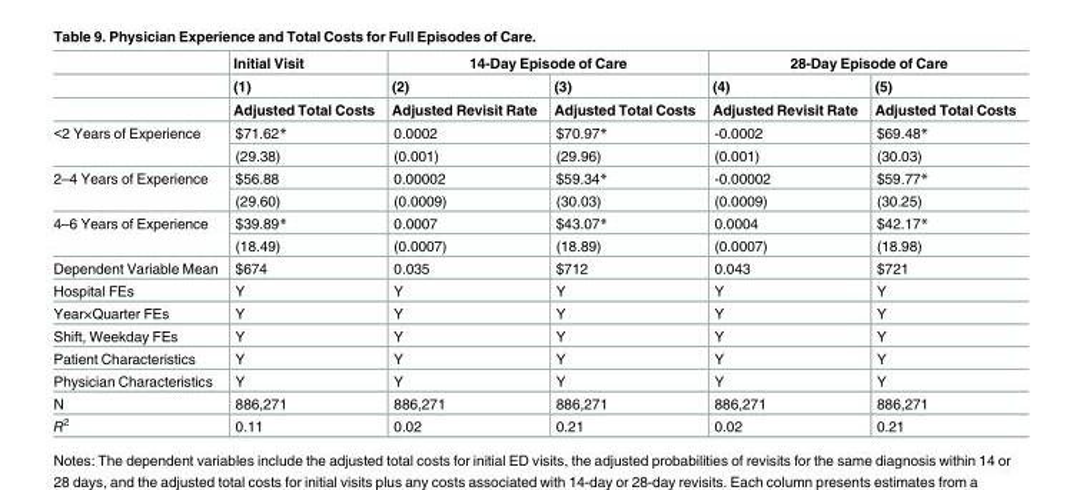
<table><thead><tr><td rowspan="3"></td><td rowspan="3">Initial Visit (1) Adjusted Total Costs</td><td colspan="2">14-Day Episode of Care</td><td colspan="2">28-Day Episode of Care</td></tr><tr><td rowspan="2">(2) Adjusted Revisit Rate</td><td rowspan="2">(3) Adjusted Total Costs</td><td rowspan="2">(4) Adjusted Revisit Rate</td><td rowspan="2">(5) Adjusted Total Costs</td></tr><tr></tr></thead><tbody><tr><td rowspan="2">&lt;2 Years of Experience</td><td>$71.62*</td><td>0.0002</td><td>$70.97*</td><td>-0.0002</td><td>$69.48*</td></tr><tr><td>(29.38)</td><td>(0.001)</td><td>(29.96)</td><td>(0.001)</td><td>(30.03)</td></tr><tr><td rowspan="2">2–4 Years of Experience</td><td>$56.88</td><td>0.00002</td><td>$59.34*</td><td>-0.00002</td><td>$59.77*</td></tr><tr><td>(29.60)</td><td>(0.0009)</td><td>(30.03)</td><td>(0.0009)</td><td>(30.25)</td></tr><tr><td rowspan="2">4–6 Years of Experience</td><td>$39.89*</td><td>0.0007</td><td>$43.07*</td><td>0.0004</td><td>$42.17*</td></tr><tr><td>(18.49)</td><td>(0.0007)</td><td>(18.89)</td><td>(0.0007)</td><td>(18.98)</td></tr><tr><td>Dependent Variable Mean</td><td>$674</td><td>0.035</td><td>$712</td><td>0.043</td><td>$721</td></tr><tr><td>Hospital FEs</td><td>Y</td><td>Y</td><td>Y</td><td>Y</td><td>Y</td></tr><tr><td>Year×Quarter FEs</td><td>Y</td><td>Y</td><td>Y</td><td>Y</td><td>Y</td></tr><tr><td>Shift, Weekday FEs</td><td>Y</td><td>Y</td><td>Y</td><td>Y</td><td>Y</td></tr><tr><td>Patient Characteristics</td><td>Y</td><td>Y</td><td>Y</td><td>Y</td><td>Y</td></tr><tr><td>Physician Characteristics</td><td>Y</td><td>Y</td><td>Y</td><td>Y</td><td>Y</td></tr><tr><td>N</td><td>886,271</td><td>886,271</td><td>886,271</td><td>886,271</td><td>886,271</td></tr><tr><td>R<sup>2</sup></td><td>0.11</td><td>0.02</td><td>0.21</td><td>0.02</td><td>0.21</td></tr></tbody></table>